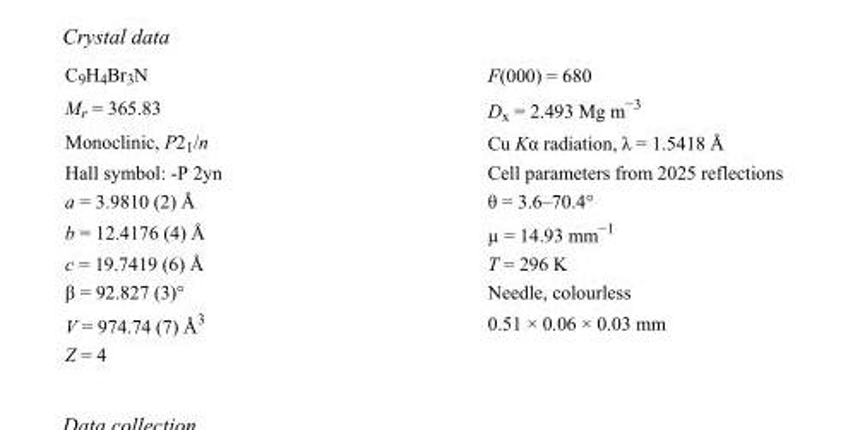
<table><tbody><tr><td>C<sub>9</sub>H<sub>4</sub>Br<sub>3</sub>N</td><td>F(000) = 680</td></tr><tr><td>M<sub>r</sub> = 365.83</td><td>D<sub>x</sub> = 2.493 Mg m<sup>−3</sup></td></tr><tr><td>Monoclinic, P2<sub>1</sub>/n</td><td>Cu Kα radiation, λ = 1.5418 Å</td></tr><tr><td>Hall symbol: -P 2yn</td><td>Cell parameters from 2025 reflections</td></tr><tr><td>a = 3.9810 (2) Å</td><td>θ = 3.6–70.4°</td></tr><tr><td>b = 12.4176 (4) Å</td><td>µ = 14.93 mm<sup>−1</sup></td></tr><tr><td>c = 19.7419 (6) Å</td><td>T = 296 K</td></tr><tr><td>β = 92.827 (3)°</td><td>Needle, colourless</td></tr><tr><td>V = 974.74 (7) Å<sup>3</sup></td><td>0.51 × 0.06 × 0.03 mm</td></tr><tr><td>Z = 4</td><td></td></tr></tbody></table>